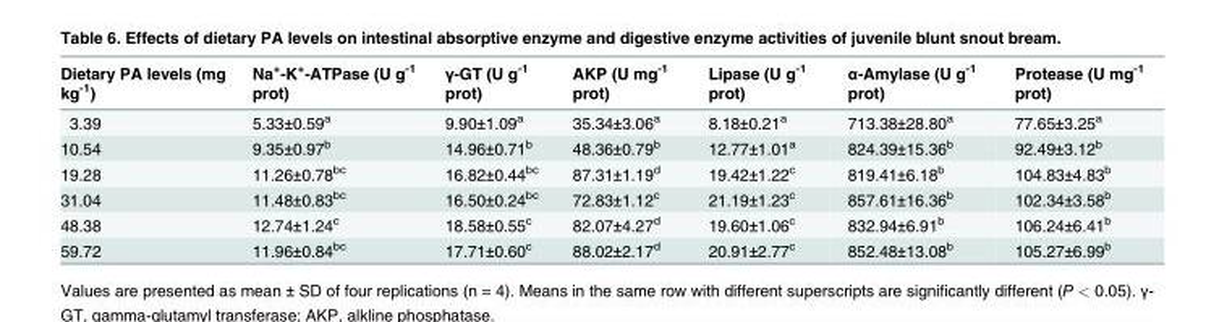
<table><thead><tr><td>Dietary PA levels (mg kg<sup>-1</sup>)</td><td>Na<sup>+</sup>-K<sup>+</sup>-ATPase (U g<sup>-1</sup> prot)</td><td>γ-GT (U g<sup>-1</sup> prot)</td><td>AKP (U mg<sup>-1</sup> prot)</td><td>Lipase (U g<sup>-1</sup> prot)</td><td>α-Amylase (U g<sup>-1</sup> prot)</td><td>Protease (U mg<sup>-1</sup> prot)</td></tr></thead><tbody><tr><td>3.39</td><td>5.33±0.59<sup>a</sup></td><td>9.90±1.09<sup>a</sup></td><td>35.34±3.06<sup>a</sup></td><td>8.18±0.21<sup>a</sup></td><td>713.38±28.80<sup>a</sup></td><td>77.65±3.25<sup>a</sup></td></tr><tr><td>10.54</td><td>9.35±0.97<sup>b</sup></td><td>14.96±0.71<sup>b</sup></td><td>48.36±0.79<sup>b</sup></td><td>12.77±1.01<sup>a</sup></td><td>824.39±15.36<sup>b</sup></td><td>92.49±3.12<sup>b</sup></td></tr><tr><td>19.28</td><td>11.26±0.78<sup>bc</sup></td><td>16.82±0.44<sup>bc</sup></td><td>87.31±1.19<sup>d</sup></td><td>19.42±1.22<sup>c</sup></td><td>819.41±6.18<sup>b</sup></td><td>104.83±4.83<sup>b</sup></td></tr><tr><td>31.04</td><td>11.48±0.83<sup>bc</sup></td><td>16.50±0.24<sup>bc</sup></td><td>72.83±1.12<sup>c</sup></td><td>21.19±1.23<sup>c</sup></td><td>857.61±16.36<sup>b</sup></td><td>102.34±3.58<sup>b</sup></td></tr><tr><td>48.38</td><td>12.74±1.24<sup>c</sup></td><td>18.58±0.55<sup>c</sup></td><td>82.07±4.27<sup>d</sup></td><td>19.60±1.06<sup>c</sup></td><td>832.94±6.91<sup>b</sup></td><td>106.24±6.41<sup>b</sup></td></tr><tr><td>59.72</td><td>11.96±0.84<sup>bc</sup></td><td>17.71±0.60<sup>c</sup></td><td>88.02±2.17<sup>d</sup></td><td>20.91±2.77<sup>c</sup></td><td>852.48±13.08<sup>b</sup></td><td>105.27±6.99<sup>b</sup></td></tr></tbody></table>